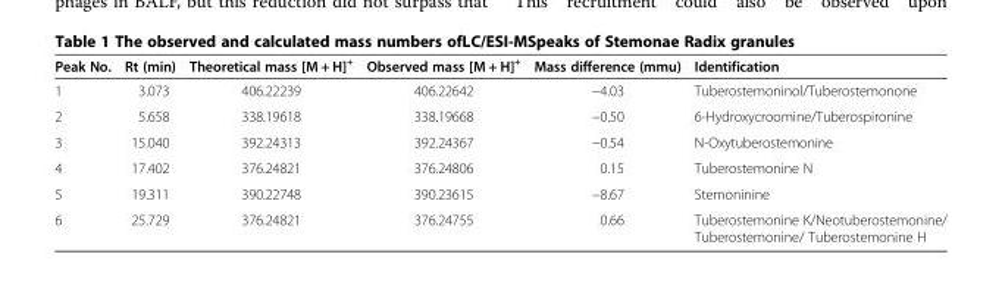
<table><thead><tr><td>Peak No.</td><td>Rt (min)</td><td>Theoretical mass [M + H]<sup>+</sup></td><td>Observed mass [M + H]<sup>+</sup></td><td>Mass difference (mmu)</td><td>Identification</td></tr></thead><tbody><tr><td>1</td><td>3.073</td><td>406.22239</td><td>406.22642</td><td>−4.03</td><td>Tuberostemoninol/Tuberostemonone</td></tr><tr><td>2</td><td>5.658</td><td>338.19618</td><td>338.19668</td><td>−0.50</td><td>6-Hydroxycroomine/Tuberospironine</td></tr><tr><td>3</td><td>15.040</td><td>392.24313</td><td>392.24367</td><td>−0.54</td><td>N-Oxytuberostemonine</td></tr><tr><td>4</td><td>17.402</td><td>376.24821</td><td>376.24806</td><td>0.15</td><td>Tuberostemonine N</td></tr><tr><td>5</td><td>19.311</td><td>390.22748</td><td>390.23615</td><td>−8.67</td><td>Stemoninine</td></tr><tr><td>6</td><td>25.729</td><td>376.24821</td><td>376.24755</td><td>0.66</td><td>Tuberostemonine K/Neotuberostemonine/ Tuberostemonine/ Tuberostemonine H</td></tr></tbody></table>